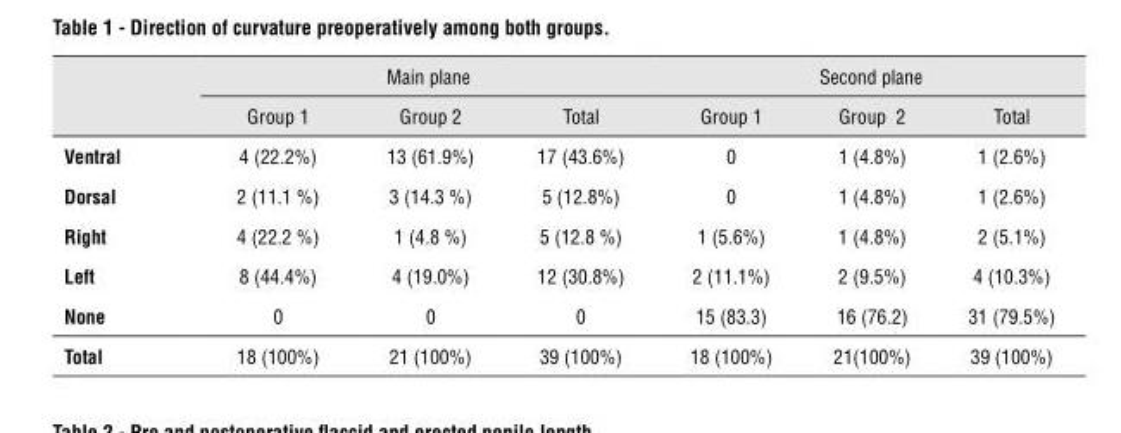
<table><thead><tr><td rowspan="2"></td><td colspan="3">Main plane</td><td colspan="3">Second plane</td></tr><tr><td>Group 1</td><td>Group 2</td><td>Total</td><td>Group 1</td><td>Group 2</td><td>Total</td></tr></thead><tbody><tr><td>ventral</td><td>4 (22.2%)</td><td>13 (61.9%)</td><td>17 (43.6%)</td><td>0</td><td>1 (4.8%)</td><td>1 (2.6%)</td></tr><tr><td>Dorsal</td><td>2 (11.1 %)</td><td>3 (14.3 %)</td><td>5 (12.8%)</td><td>0</td><td>1 (4.8%)</td><td>1 (2.6%)</td></tr><tr><td>Right</td><td>4 (22.2 %)</td><td>1 (4.8 %)</td><td>5 (12.8 %)</td><td>1 (5.6%)</td><td>1 (4.8%)</td><td>2 (5.1%)</td></tr><tr><td>Left</td><td>8 (44.4%)</td><td>4 (19.0%)</td><td>12 (30.8%)</td><td>2 (11.1%)</td><td>2 (9.5%)</td><td>4 (10.3%)</td></tr><tr><td>none</td><td>0</td><td>0</td><td>0</td><td>15 (83.3)</td><td>16 (76.2)</td><td>31 (79.5%)</td></tr><tr><td>Total</td><td>18 (100%)</td><td>21 (100%)</td><td>39 (100%)</td><td>18 (100%)</td><td>21(100%)</td><td>39 (100%)</td></tr></tbody></table>